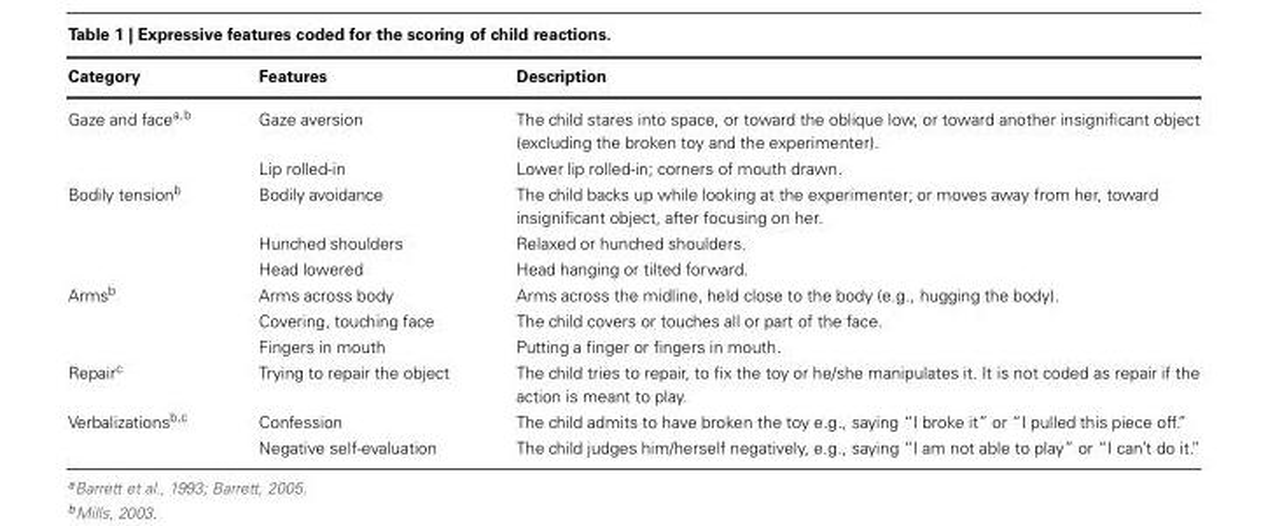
<table><thead><tr><td>Category</td><td>Features</td><td>Description</td></tr></thead><tbody><tr><td rowspan="2">Gaze and face<sup>a,b</sup></td><td>Gaze aversion</td><td>The child stares into space, or toward the oblique low, or toward another insignificant object (excluding the broken toy and the experimenter).</td></tr><tr><td>Lip rolled-in</td><td>Lower lip rolled-in; corners of mouth drawn.</td></tr><tr><td rowspan="3">Bodily tension<sup>b</sup></td><td>Bodily avoidance</td><td>The child backs up while looking at the experimenter; or moves away from her, toward insignificant object, after focusing on her.</td></tr><tr><td>Hunched shoulders</td><td>Relaxed or hunched shoulders.</td></tr><tr><td>Head lowered</td><td>Head hanging or tilted forward.</td></tr><tr><td rowspan="3">Arms<sup>b</sup></td><td>Arms across body</td><td>Arms across the midline, held close to the body (e.g., hugging the body).</td></tr><tr><td>Covering, touching face</td><td>The child covers or touches all or part of the face.</td></tr><tr><td>Fingers in mouth</td><td>Putting a finger or fingers in mouth.</td></tr><tr><td>Repair<sup>c</sup></td><td>Trying to repair the object</td><td>The child tries to repair, to fix the toy or he/she manipulates it. It is not coded as repair if the action is meant to play.</td></tr><tr><td rowspan="2">Verbalizations<sup>b,c</sup></td><td>Confession</td><td>The child admits to have broken the toy e.g., saying “I broke it” or “I pulled this piece off.”</td></tr><tr><td>Negative self-evaluation</td><td>The child judges him/herself negatively, e.g., saying “I am not able to play” or “I can’t do it.”</td></tr></tbody></table>